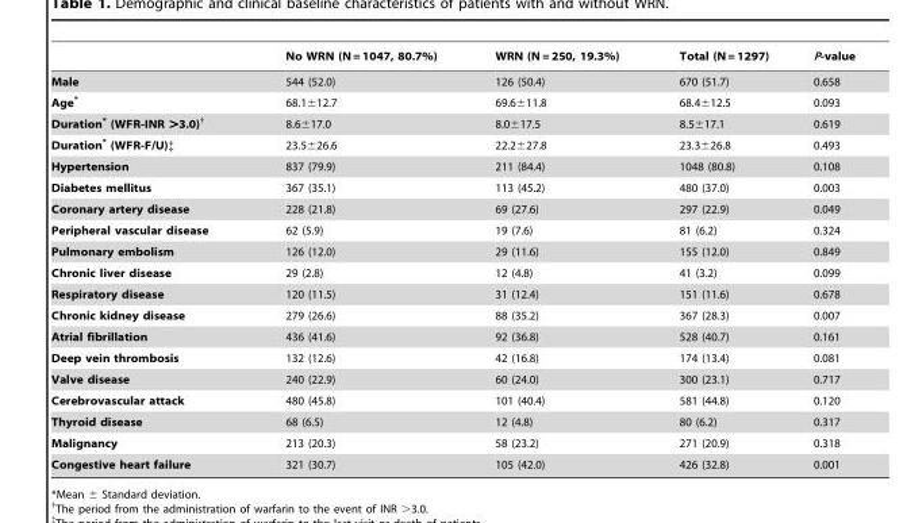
<table><thead><tr><td></td><td>No WRN (N = 1047, 80.7%)</td><td>WRN (N = 250, 19.3%)</td><td>Total (N = 1297)</td><td>P-value</td></tr></thead><tbody><tr><td>Male</td><td>544 (52.0)</td><td>126 (50.4)</td><td>670 (51.7)</td><td>0.658</td></tr><tr><td>Age*</td><td>68.1±12.7</td><td>69.6±11.8</td><td>68.4±12.5</td><td>0.093</td></tr><tr><td>Duration* (WFR-INR &gt;3.0)†</td><td>8.6±17.0</td><td>8.0±17.5</td><td>8.5±17.1</td><td>0.619</td></tr><tr><td>Duration* (WFR-F/U)‡</td><td>23.5±26.6</td><td>22.2±27.8</td><td>23.3±26.8</td><td>0.493</td></tr><tr><td>Hypertension</td><td>837 (79.9)</td><td>211 (84.4)</td><td>1048 (80.8)</td><td>0.108</td></tr><tr><td>Diabetes mellitus</td><td>367 (35.1)</td><td>113 (45.2)</td><td>480 (37.0)</td><td>0.003</td></tr><tr><td>Coronary artery disease</td><td>228 (21.8)</td><td>69 (27.6)</td><td>297 (22.9)</td><td>0.049</td></tr><tr><td>Peripheral vascular disease</td><td>62 (5.9)</td><td>19 (7.6)</td><td>81 (6.2)</td><td>0.324</td></tr><tr><td>Pulmonary embolism</td><td>126 (12.0)</td><td>29 (11.6)</td><td>155 (12.0)</td><td>0.849</td></tr><tr><td>Chronic liver disease</td><td>29 (2.8)</td><td>12 (4.8)</td><td>41 (3.2)</td><td>0.099</td></tr><tr><td>Respiratory disease</td><td>120 (11.5)</td><td>31 (12.4)</td><td>151 (11.6)</td><td>0.678</td></tr><tr><td>Chronic kidney disease</td><td>279 (26.6)</td><td>88 (35.2)</td><td>367 (28.3)</td><td>0.007</td></tr><tr><td>Atrial fibrillation</td><td>436 (41.6)</td><td>92 (36.8)</td><td>528 (40.7)</td><td>0.161</td></tr><tr><td>Deep vein thrombosis</td><td>132 (12.6)</td><td>42 (16.8)</td><td>174 (13.4)</td><td>0.081</td></tr><tr><td>Valve disease</td><td>240 (22.9)</td><td>60 (24.0)</td><td>300 (23.1)</td><td>0.717</td></tr><tr><td>Cerebrovascular attack</td><td>480 (45.8)</td><td>101 (40.4)</td><td>581 (44.8)</td><td>0.120</td></tr><tr><td>Thyroid disease</td><td>68 (6.5)</td><td>12 (4.8)</td><td>80 (6.2)</td><td>0.317</td></tr><tr><td>Malignancy</td><td>213 (20.3)</td><td>58 (23.2)</td><td>271 (20.9)</td><td>0.318</td></tr><tr><td>Congestive heart failure</td><td>321 (30.7)</td><td>105 (42.0)</td><td>426 (32.8)</td><td>0.001</td></tr></tbody></table>